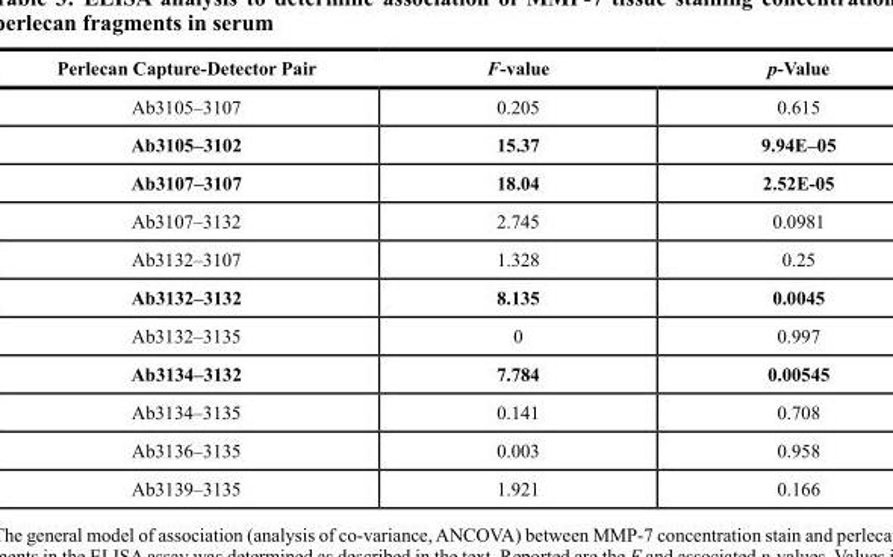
<table><thead><tr><td>Perlecan Capture-Detector Pair</td><td>F-value</td><td>p-Value</td></tr></thead><tbody><tr><td>Ab3105–3107</td><td>0.205</td><td>0.615</td></tr><tr><td>Ab3105–3102</td><td>15.37</td><td>9.94E–05</td></tr><tr><td>Ab3107–3107</td><td>18.04</td><td>2.52E-05</td></tr><tr><td>Ab3107–3132</td><td>2.745</td><td>0.0981</td></tr><tr><td>Ab3132–3107</td><td>1.328</td><td>0.25</td></tr><tr><td>Ab3132–3132</td><td>8.135</td><td>0.0045</td></tr><tr><td>Ab3132–3135</td><td>0</td><td>0.997</td></tr><tr><td>Ab3134–3132</td><td>7.784</td><td>0.00545</td></tr><tr><td>Ab3134–3135</td><td>0.141</td><td>0.708</td></tr><tr><td>Ab3136–3135</td><td>0.003</td><td>0.958</td></tr><tr><td>Ab3139–3135</td><td>1.921</td><td>0.166</td></tr></tbody></table>